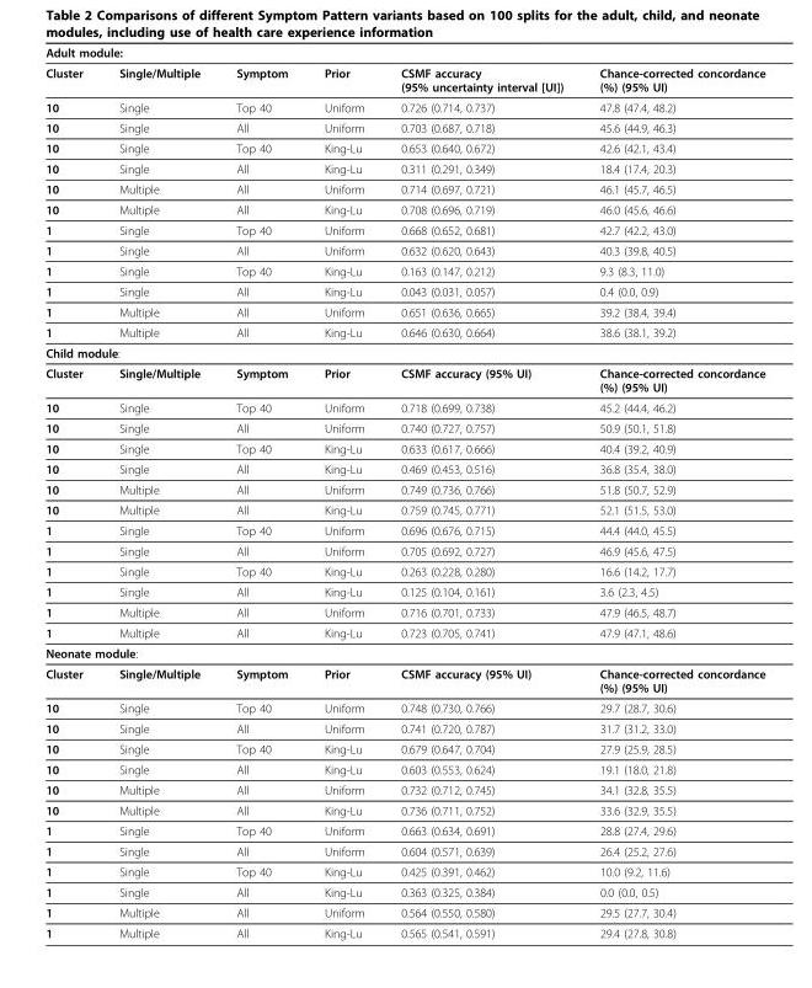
<table><thead><tr><td colspan="2">Adult module:</td><td rowspan="2">Symptom</td><td rowspan="2">Prior</td><td rowspan="2">CSMF accuracy (95% uncertainty interval [UI])</td><td rowspan="2">Chance-corrected concordance (%) (95% UI)</td></tr><tr><td>Cluster</td><td>Single/Multiple</td></tr></thead><tbody><tr><td>10</td><td>Single</td><td>Top 40</td><td>Uniform</td><td>0.726 (0.714, 0.737)</td><td>47.8 (47.4, 48.2)</td></tr><tr><td>10</td><td>Single</td><td>All</td><td>Uniform</td><td>0.703 (0.687, 0.718)</td><td>45.6 (44.9, 46.3)</td></tr><tr><td>10</td><td>Single</td><td>Top 40</td><td>King-Lu</td><td>0.653 (0.640, 0.672)</td><td>42.6 (42.1, 43.4)</td></tr><tr><td>10</td><td>Single</td><td>All</td><td>King-Lu</td><td>0.311 (0.291, 0.349)</td><td>18.4 (17.4, 20.3)</td></tr><tr><td>10</td><td>Multiple</td><td>All</td><td>Uniform</td><td>0.714 (0.697, 0.721)</td><td>46.1 (45.7, 46.5)</td></tr><tr><td>10</td><td>Multiple</td><td>All</td><td>King-Lu</td><td>0.708 (0.696, 0.719)</td><td>46.0 (45.6, 46.6)</td></tr><tr><td>1</td><td>Single</td><td>Top 40</td><td>Uniform</td><td>0.668 (0.652, 0.681)</td><td>42.7 (42.2, 43.0)</td></tr><tr><td>1</td><td>Single</td><td>All</td><td>Uniform</td><td>0.632 (0.620, 0.643)</td><td>40.3 (39.8, 40.5)</td></tr><tr><td>1</td><td>Single</td><td>Top 40</td><td>King-Lu</td><td>0.163 (0.147, 0.212)</td><td>9.3 (8.3, 11.0)</td></tr><tr><td>1</td><td>Single</td><td>All</td><td>King-Lu</td><td>0.043 (0.031, 0.057)</td><td>0.4 (0.0, 0.9)</td></tr><tr><td>1</td><td>Multiple</td><td>All</td><td>Uniform</td><td>0.651 (0.636, 0.665)</td><td>39.2 (38.4, 39.4)</td></tr><tr><td>1</td><td>Multiple</td><td>All</td><td>King-Lu</td><td>0.646 (0.630, 0.664)</td><td>38.6 (38.1, 39.2)</td></tr><tr><td colspan="6">Child module:</td></tr><tr><td>Cluster</td><td>Single/Multiple</td><td>Symptom</td><td>Prior</td><td>CSMF accuracy (95% UI)</td><td>Chance-corrected concordance (%) (95% UI)</td></tr><tr><td>10</td><td>Single</td><td>Top 40</td><td>Uniform</td><td>0.718 (0.699, 0.738)</td><td>45.2 (44.4, 46.2)</td></tr><tr><td>10</td><td>Single</td><td>All</td><td>Uniform</td><td>0.740 (0.727, 0.757)</td><td>50.9 (50.1, 51.8)</td></tr><tr><td>10</td><td>Single</td><td>Top 40</td><td>King-Lu</td><td>0.633 (0.617, 0.666)</td><td>40.4 (39.2, 40.9)</td></tr><tr><td>10</td><td>Single</td><td>All</td><td>King-Lu</td><td>0.469 (0.453, 0.516)</td><td>36.8 (35.4, 38.0)</td></tr><tr><td>10</td><td>Multiple</td><td>All</td><td>Uniform</td><td>0.749 (0.736, 0.766)</td><td>51.8 (50.7, 52.9)</td></tr><tr><td>10</td><td>Multiple</td><td>All</td><td>King-Lu</td><td>0.759 (0.745, 0.771)</td><td>52.1 (51.5, 53.0)</td></tr><tr><td>1</td><td>Single</td><td>Top 40</td><td>Uniform</td><td>0.696 (0.676, 0.715)</td><td>44.4 (44.0, 45.5)</td></tr><tr><td>1</td><td>Single</td><td>All</td><td>Uniform</td><td>0.705 (0.692, 0.727)</td><td>46.9 (45.6, 47.5)</td></tr><tr><td>1</td><td>Single</td><td>Top 40</td><td>King-Lu</td><td>0.263 (0.228, 0.280)</td><td>16.6 (14.2, 17.7)</td></tr><tr><td>1</td><td>Single</td><td>All</td><td>King-Lu</td><td>0.125 (0.104, 0.161)</td><td>3.6 (2.3, 4.5)</td></tr><tr><td>1</td><td>Multiple</td><td>All</td><td>Uniform</td><td>0.716 (0.701, 0.733)</td><td>47.9 (46.5, 48.7)</td></tr><tr><td>1</td><td>Multiple</td><td>All</td><td>King-Lu</td><td>0.723 (0.705, 0.741)</td><td>47.9 (47.1, 48.6)</td></tr><tr><td colspan="6">Neonate module:</td></tr><tr><td>Cluster</td><td>Single/Multiple</td><td>Symptom</td><td>Prior</td><td>CSMF accuracy (95% UI)</td><td>Chance-corrected concordance (%) (95% UI)</td></tr><tr><td>10</td><td>Single</td><td>Top 40</td><td>Uniform</td><td>0.748 (0.730, 0.766)</td><td>29.7 (28.7, 30.6)</td></tr><tr><td>10</td><td>Single</td><td>All</td><td>Uniform</td><td>0.741 (0.720, 0.787)</td><td>31.7 (31.2, 33.0)</td></tr><tr><td>10</td><td>Single</td><td>Top 40</td><td>King-Lu</td><td>0.679 (0.647, 0.704)</td><td>27.9 (25.9, 28.5)</td></tr><tr><td>10</td><td>Single</td><td>All</td><td>King-Lu</td><td>0.603 (0.553, 0.624)</td><td>19.1 (18.0, 21.8)</td></tr><tr><td>10</td><td>Multiple</td><td>All</td><td>Uniform</td><td>0.732 (0.712, 0.745)</td><td>34.1 (32.8, 35.5)</td></tr><tr><td>10</td><td>Multiple</td><td>All</td><td>King-Lu</td><td>0.736 (0.711, 0.752)</td><td>33.6 (32.9, 35.5)</td></tr><tr><td>1</td><td>Single</td><td>Top 40</td><td>Uniform</td><td>0.663 (0.634, 0.691)</td><td>28.8 (27.4, 29.6)</td></tr><tr><td>1</td><td>Single</td><td>All</td><td>Uniform</td><td>0.604 (0.571, 0.639)</td><td>26.4 (25.2, 27.6)</td></tr><tr><td>1</td><td>Single</td><td>Top 40</td><td>King-Lu</td><td>0.425 (0.391, 0.462)</td><td>10.0 (9.2, 11.6)</td></tr><tr><td>1</td><td>Single</td><td>All</td><td>King-Lu</td><td>0.363 (0.325, 0.384)</td><td>0.0 (0.0, 0.5)</td></tr><tr><td>1</td><td>Multiple</td><td>All</td><td>Uniform</td><td>0.564 (0.550, 0.580)</td><td>29.5 (27.7, 30.4)</td></tr><tr><td>1</td><td>Multiple</td><td>All</td><td>King-Lu</td><td>0.565 (0.541, 0.591)</td><td>29.4 (27.8, 30.8)</td></tr></tbody></table>